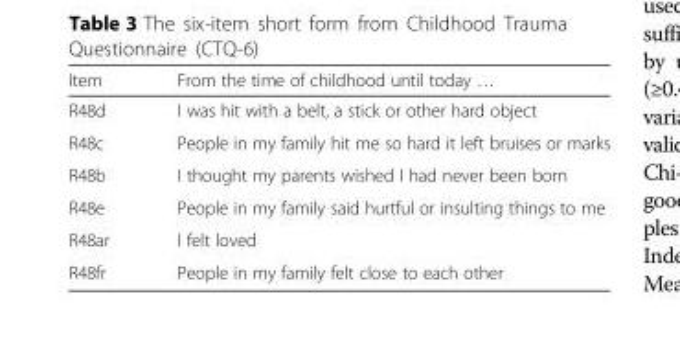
<table><thead><tr><td>Item</td><td>From the time of childhood until today …</td></tr></thead><tbody><tr><td>R48d</td><td>I was hit with a belt, a stick or other hard object</td></tr><tr><td>R48c</td><td>People in my family hit me so hard it left bruises or marks</td></tr><tr><td>R48b</td><td>I thought my parents wished I had never been born</td></tr><tr><td>R48e</td><td>People in my family said hurtful or insulting things to me</td></tr><tr><td>R48ar</td><td>I felt loved</td></tr><tr><td>R48fr</td><td>People in my family felt close to each other</td></tr></tbody></table>